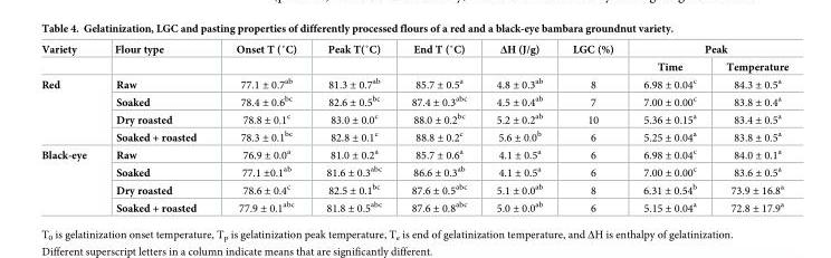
<table><thead><tr><td rowspan="2">Variety</td><td rowspan="2">Flour type</td><td rowspan="2">Onset T (˚C)</td><td rowspan="2">Peak T(˚C)</td><td rowspan="2">End T (˚C)</td><td rowspan="2">ΔH (J/g)</td><td rowspan="2">LGC (%)</td><td colspan="2">Peak</td></tr><tr><td>Time</td><td>Temperature</td></tr></thead><tbody><tr><td rowspan="4">Red</td><td>Raw</td><td>77.1 ± 0.7<sup>ab</sup></td><td>81.3 ± 0.7<sup>ab</sup></td><td>85.7 ± 0.5<sup>a</sup></td><td>4.8 ± 0.3<sup>ab</sup></td><td>8</td><td>6.98 ± 0.04<sup>c</sup></td><td>84.3 ± 0.5<sup>a</sup></td></tr><tr><td>Soaked</td><td>78.4 ± 0.6<sup>bc</sup></td><td>82.6 ± 0.5<sup>bc</sup></td><td>87.4 ± 0.3<sup>abc</sup></td><td>4.5 ± 0.4<sup>ab</sup></td><td>7</td><td>7.00 ± 0.00<sup>c</sup></td><td>83.8 ± 0.4<sup>a</sup></td></tr><tr><td>Dry roasted</td><td>78.8 ± 0.1<sup>c</sup></td><td>83.0 ± 0.0<sup>c</sup></td><td>88.0 ± 0.2<sup>bc</sup></td><td>5.2 ± 0.2<sup>ab</sup></td><td>10</td><td>5.36 ± 0.15<sup>a</sup></td><td>83.4 ± 0.5<sup>a</sup></td></tr><tr><td>Soaked + roasted</td><td>78.3 ± 0.1<sup>bc</sup></td><td>82.8 ± 0.1<sup>c</sup></td><td>88.8 ± 0.2<sup>c</sup></td><td>5.6 ± 0.0<sup>b</sup></td><td>6</td><td>5.25 ± 0.04<sup>a</sup></td><td>83.8 ± 0.5<sup>a</sup></td></tr><tr><td rowspan="4">Black-eye</td><td>Raw</td><td>76.9 ± 0.0<sup>a</sup></td><td>81.0 ± 0.2<sup>a</sup></td><td>85.7 ± 0.6<sup>a</sup></td><td>4.1 ± 0.5<sup>a</sup></td><td>6</td><td>6.98 ± 0.04<sup>c</sup></td><td>84.0 ± 0.1<sup>a</sup></td></tr><tr><td>Soaked</td><td>77.1 ±0.1<sup>ab</sup></td><td>81.6 ± 0.3<sup>abc</sup></td><td>86.6 ± 0.3<sup>ab</sup></td><td>4.1 ± 0.5<sup>a</sup></td><td>6</td><td>7.00 ± 0.00<sup>c</sup></td><td>83.6 ± 0.5<sup>a</sup></td></tr><tr><td>Dry roasted</td><td>78.6 ± 0.4<sup>c</sup></td><td>82.5 ± 0.1<sup>bc</sup></td><td>87.6 ± 0.5<sup>abc</sup></td><td>5.1 ± 0.0<sup>ab</sup></td><td>8</td><td>6.31 ± 0.54<sup>b</sup></td><td>73.9 ± 16.8<sup>a</sup></td></tr><tr><td>Soaked + roasted</td><td>77.9 ± 0.1<sup>abc</sup></td><td>81.8 ± 0.5<sup>abc</sup></td><td>87.6 ± 0.8<sup>abc</sup></td><td>5.0 ± 0.0<sup>ab</sup></td><td>6</td><td>5.15 ± 0.04<sup>a</sup></td><td>72.8 ± 17.9<sup>a</sup></td></tr></tbody></table>